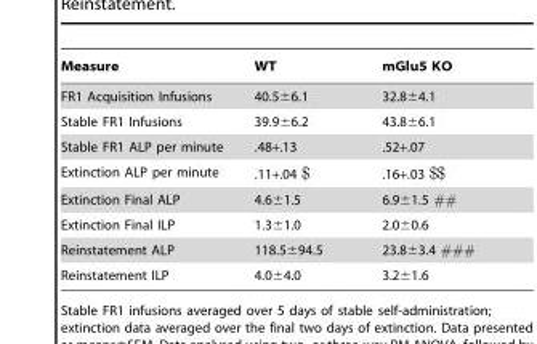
<table><thead><tr><td>Measure</td><td>WT</td><td>mGlu5 KO</td></tr></thead><tbody><tr><td>FR1 Acquisition Infusions</td><td>40.5±6.1</td><td>32.8±4.1</td></tr><tr><td>Stable FR1 Infusions</td><td>39.9±6.2</td><td>43.8±6.1</td></tr><tr><td>Stable FR1 ALP per minute</td><td>.48+.13</td><td>.52+.07</td></tr><tr><td>Extinction ALP per minute</td><td>.11+.04 $</td><td>.16+.03 $$</td></tr><tr><td>Extinction Final ALP</td><td>4.6±1.5</td><td>6.9±1.5 ##</td></tr><tr><td>Extinction Final ILP</td><td>1.3±1.0</td><td>2.0±0.6</td></tr><tr><td>Reinstatement ALP</td><td>118.5±94.5</td><td>23.8±3.4 ###</td></tr><tr><td>Reinstatement ILP</td><td>4.0±4.0</td><td>3.2±1.6</td></tr></tbody></table>